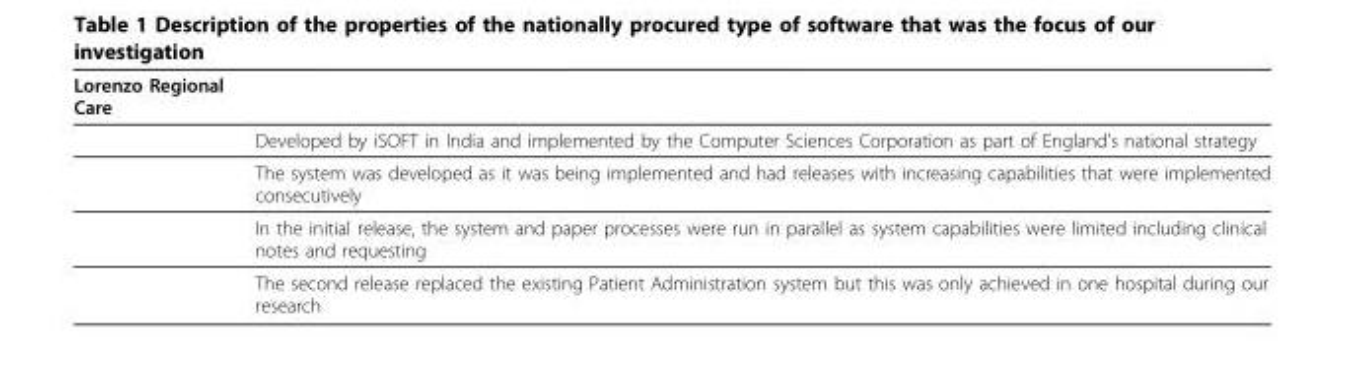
<table><thead><tr><td>Lorenzo Regional Care</td><td></td></tr></thead><tbody><tr><td></td><td>Developed by iSOFT in India and implemented by the Computer Sciences Corporation as part of England’s national strategy</td></tr><tr><td></td><td>The system was developed as it was being implemented and had releases with increasing capabilities that were implemented consecutively</td></tr><tr><td></td><td>In the initial release, the system and paper processes were run in parallel as system capabilities were limited including clinical notes and requesting</td></tr><tr><td></td><td>The second release replaced the existing Patient Administration system but this was only achieved in one hospital during our research</td></tr></tbody></table>